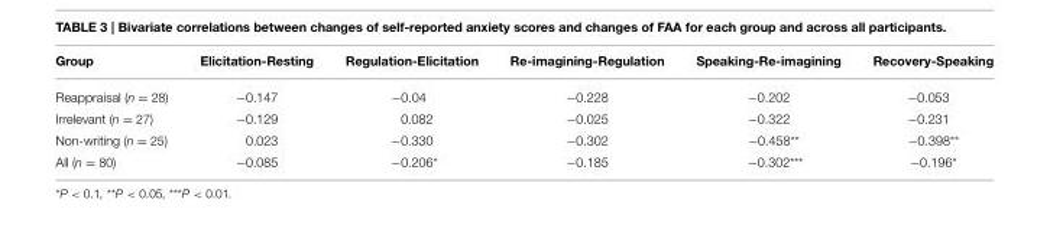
<table><thead><tr><td>Group</td><td>Elicitation-Resting</td><td>Regulation-Elicitation</td><td>Re-imagining-Regulation</td><td>Speaking-Re-imagining</td><td>Recovery-Speaking</td></tr></thead><tbody><tr><td>Reappraisal (n = 28)</td><td>−0.147</td><td>−0.04</td><td>−0.228</td><td>−0.202</td><td>−0.053</td></tr><tr><td>Irrelevant (n = 27)</td><td>−0.129</td><td>0.082</td><td>−0.025</td><td>−0.322</td><td>−0.231</td></tr><tr><td>Non-writing (n = 25)</td><td>0.023</td><td>−0.330</td><td>−0.302</td><td>−0.458**</td><td>−0.398**</td></tr><tr><td>All (n = 80)</td><td>−0.085</td><td>−0.206*</td><td>−0.185</td><td>−0.302***</td><td>−0.196*</td></tr></tbody></table>